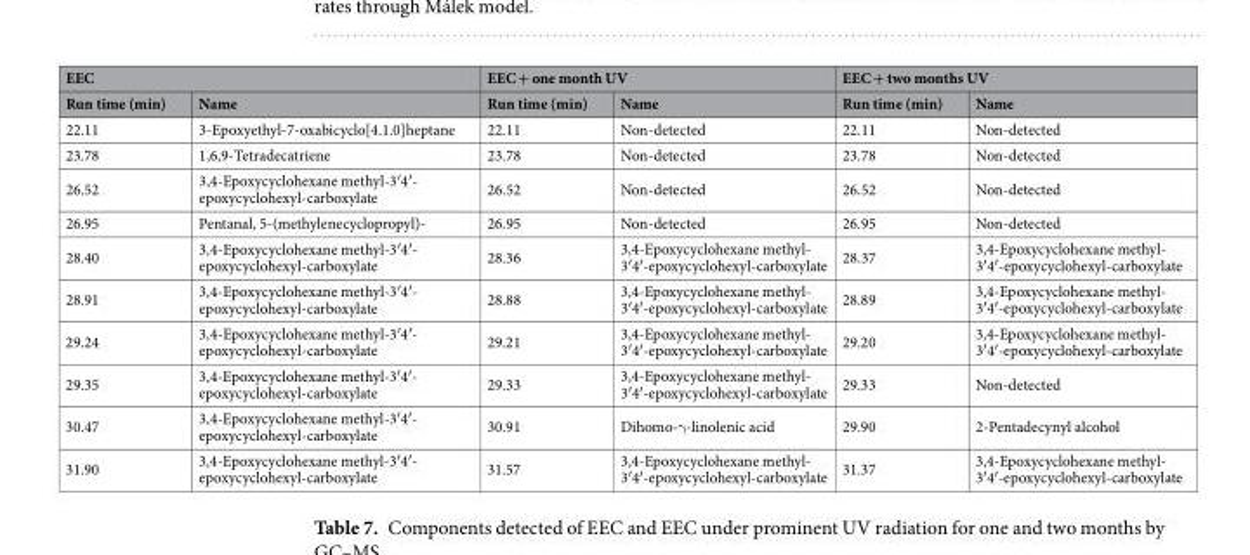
<table><thead><tr><td colspan="2">EEC</td><td colspan="2">EEC + one month UV</td><td colspan="2">EEC + two months UV</td></tr><tr><td>Run time (min)</td><td>Name</td><td>Run time (min)</td><td>Name</td><td>Run time (min)</td><td>Name</td></tr></thead><tbody><tr><td>22.11</td><td>3-Epoxyethyl-7-oxabicyclo[4.1.0]heptane</td><td>22.11</td><td>Non-detected</td><td>22.11</td><td>Non-detected</td></tr><tr><td>23.78</td><td>1,6,9-Tetradecatriene</td><td>23.78</td><td>Non-detected</td><td>23.78</td><td>Non-detected</td></tr><tr><td>26.52</td><td>3,4-Epoxycyclohexane methyl-3′4′- epoxycyclohexyl-carboxylate</td><td>26.52</td><td>Non-detected</td><td>26.52</td><td>Non-detected</td></tr><tr><td>26.95</td><td>Pentanal, 5-(methylenecyclopropyl)-</td><td>26.95</td><td>Non-detected</td><td>26.95</td><td>Non-detected</td></tr><tr><td>28.40</td><td>3,4-Epoxycyclohexane methyl-3′4′- epoxycyclohexyl-carboxylate</td><td>28.36</td><td>3,4-Epoxycyclohexane methyl- 3′4′-epoxycyclohexyl-carboxylate</td><td>28.37</td><td>3,4-Epoxycyclohexane methyl- 3′4′-epoxycyclohexyl-carboxylate</td></tr><tr><td>28.91</td><td>3,4-Epoxycyclohexane methyl-3′4′- epoxycyclohexyl-carboxylate</td><td>28.88</td><td>3,4-Epoxycyclohexane methyl- 3′4′-epoxycyclohexyl-carboxylate</td><td>28.89</td><td>3,4-Epoxycyclohexane methyl- 3′4′-epoxycyclohexyl-carboxylate</td></tr><tr><td>29.24</td><td>3,4-Epoxycyclohexane methyl-3′4′- epoxycyclohexyl-carboxylate</td><td>29.21</td><td>3,4-Epoxycyclohexane methyl- 3′4′-epoxycyclohexyl-carboxylate</td><td>29.20</td><td>3,4-Epoxycyclohexane methyl- 3′4′-epoxycyclohexyl-carboxylate</td></tr><tr><td>29.35</td><td>3,4-Epoxycyclohexane methyl-3′4′- epoxycyclohexyl-carboxylate</td><td>29.33</td><td>3,4-Epoxycyclohexane methyl- 3′4′-epoxycyclohexyl-carboxylate</td><td>29.33</td><td>Non-detected</td></tr><tr><td>30.47</td><td>3,4-Epoxycyclohexane methyl-3′4′- epoxycyclohexyl-carboxylate</td><td>30.91</td><td>Dihomo-γ-linolenic acid</td><td>29.90</td><td>2-Pentadecynyl alcohol</td></tr><tr><td>31.90</td><td>3,4-Epoxycyclohexane methyl-3′4′- epoxycyclohexyl-carboxylate</td><td>31.57</td><td>3,4-Epoxycyclohexane methyl- 3′4′-epoxycyclohexyl-carboxylate</td><td>31.37</td><td>3,4-Epoxycyclohexane methyl- 3′4′-epoxycyclohexyl-carboxylate</td></tr></tbody></table>